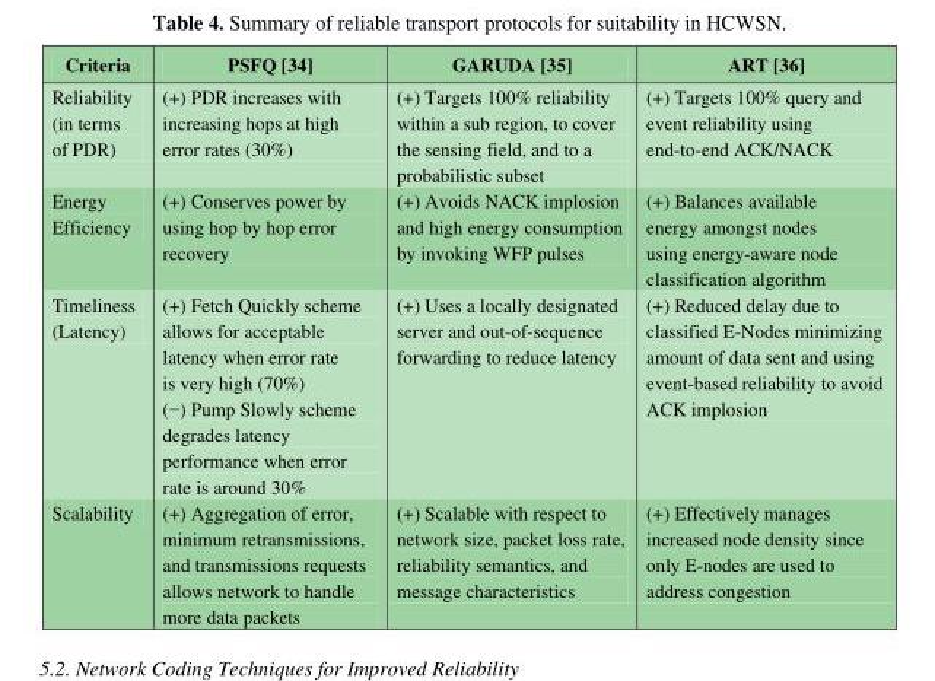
<table><thead><tr><td>Criteria</td><td>PSFQ [34]</td><td>GARUDA [35]</td><td>ART [36]</td></tr></thead><tbody><tr><td>Reliability (in terms of PDR)</td><td>(+) PDR increases with increasing hops at high error rates (30%)</td><td>(+) Targets 100% reliability within a sub region, to cover the sensing field, and to a probabilistic subset</td><td>(+) Targets 100% query and event reliability using end-to-end ACK/NACK</td></tr><tr><td>Energy Efficiency</td><td>(+) Conserves power by using hop by hop error recovery</td><td>(+) Avoids NACK implosion and high energy consumption by invoking WFP pulses</td><td>(+) Balances available energy amongst nodes using energy-aware node classification algorithm</td></tr><tr><td>Timeliness (Latency)</td><td>(+) Fetch Quickly scheme allows for acceptable latency when error rate is very high (70%) (−) Pump Slowly scheme degrades latency performance when error rate is around 30%</td><td>(+) Uses a locally designated server and out-of-sequence forwarding to reduce latency</td><td>(+) Reduced delay due to classified E-Nodes minimizing amount of data sent and using event-based reliability to avoid ACK implosion</td></tr><tr><td>Scalability</td><td>(+) Aggregation of error, minimum retransmissions, and transmissions requests allows network to handle more data packets</td><td>(+) Scalable with respect to network size, packet loss rate, reliability semantics, and message characteristics</td><td>(+) Effectively manages increased node density since only E-nodes are used to address congestion</td></tr></tbody></table>